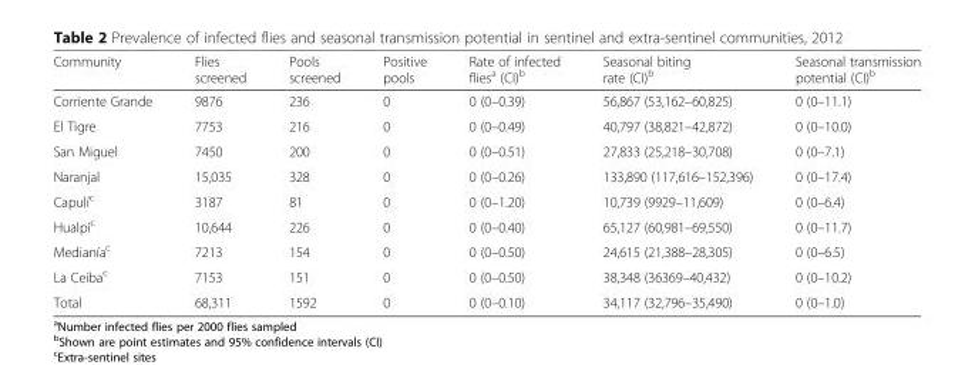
<table><thead><tr><td>Community</td><td>Flies screened</td><td>Pools screened</td><td>Positive pools</td><td>Rate of infected flies<sup>a</sup> (CI)<sup>b</sup></td><td>Seasonal biting rate (CI)<sup>b</sup></td><td>Seasonal transmission potential (CI)<sup>b</sup></td></tr></thead><tbody><tr><td>Corriente Grande</td><td>9876</td><td>236</td><td>0</td><td>0 (0–0.39)</td><td>56,867 (53,162–60,825)</td><td>0 (0–11.1)</td></tr><tr><td>El Tigre</td><td>7753</td><td>216</td><td>0</td><td>0 (0–0.49)</td><td>40,797 (38,821–42,872)</td><td>0 (0–10.0)</td></tr><tr><td>San Miguel</td><td>7450</td><td>200</td><td>0</td><td>0 (0–0.51)</td><td>27,833 (25,218–30,708)</td><td>0 (0–7.1)</td></tr><tr><td>Naranjal</td><td>15,035</td><td>328</td><td>0</td><td>0 (0–0.26)</td><td>133,890 (117,616–152,396)</td><td>0 (0–17.4)</td></tr><tr><td>Capulí<sup>c</sup></td><td>3187</td><td>81</td><td>0</td><td>0 (0–1.20)</td><td>10,739 (9929–11,609)</td><td>0 (0–6.4)</td></tr><tr><td>Hualpí<sup>c</sup></td><td>10,644</td><td>226</td><td>0</td><td>0 (0–0.40)</td><td>65,127 (60,981–69,550)</td><td>0 (0–11.7)</td></tr><tr><td>Medianía<sup>c</sup></td><td>7213</td><td>154</td><td>0</td><td>0 (0–0.50)</td><td>24,615 (21,388–28,305)</td><td>0 (0–6.5)</td></tr><tr><td>La Ceiba<sup>c</sup></td><td>7153</td><td>151</td><td>0</td><td>0 (0–0.50)</td><td>38,348 (36369–40,432)</td><td>0 (0–10.2)</td></tr><tr><td>Total</td><td>68,311</td><td>1592</td><td>0</td><td>0 (0–0.10)</td><td>34,117 (32,796–35,490)</td><td>0 (0–1.0)</td></tr></tbody></table>